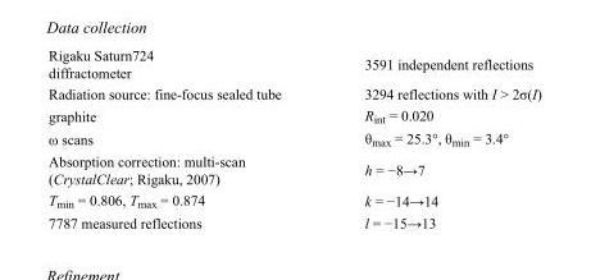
<table><tbody><tr><td>Rigaku Saturn724 diffractometer</td><td>3591 independent reflections</td></tr><tr><td>Radiation source: fine-focus sealed tube</td><td>3294 reflections with I &gt; 2σ(I)</td></tr><tr><td>graphite</td><td>R<sub>int</sub> = 0.020</td></tr><tr><td>ω scans</td><td>θ<sub>max</sub> = 25.3°, θ<sub>min</sub> = 3.4°</td></tr><tr><td>Absorption correction: multi-scan (CrystalClear; Rigaku, 2007)</td><td>h = −8→7</td></tr><tr><td>T<sub>min</sub> = 0.806, T<sub>max</sub> = 0.874</td><td>k = −14→14</td></tr><tr><td>7787 measured reflections</td><td>l = −15→13</td></tr></tbody></table>